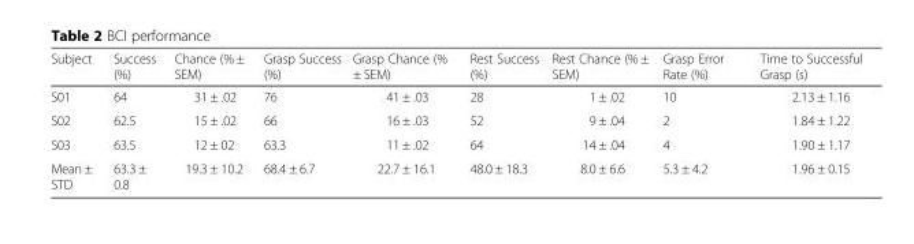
<table><thead><tr><td>Subject</td><td>Success (%)</td><td>Chance (% ± SEM)</td><td>Grasp Success (%)</td><td>Grasp Chance (% ± SEM)</td><td>Rest Success (%)</td><td>Rest Chance (% ± SEM)</td><td>Grasp Error Rate (%)</td><td>Time to Successful Grasp (s)</td></tr></thead><tbody><tr><td>S01</td><td>64</td><td>31 ± .02</td><td>76</td><td>41 ± .03</td><td>28</td><td>1 ± .02</td><td>10</td><td>2.13 ± 1.16</td></tr><tr><td>S02</td><td>62.5</td><td>15 ± .02</td><td>66</td><td>16 ± .03</td><td>52</td><td>9 ± .04</td><td>2</td><td>1.84 ± 1.22</td></tr><tr><td>S03</td><td>63.5</td><td>12 ± 02</td><td>63.3</td><td>11 ± .02</td><td>64</td><td>14 ± .04</td><td>4</td><td>1.90 ± 1.17</td></tr><tr><td>Mean ± STD</td><td>63.3 ± 0.8</td><td>19.3 ± 10.2</td><td>68.4 ± 6.7</td><td>22.7 ± 16.1</td><td>48.0 ± 18.3</td><td>8.0 ± 6.6</td><td>5.3 ± 4.2</td><td>1.96 ± 0.15</td></tr></tbody></table>